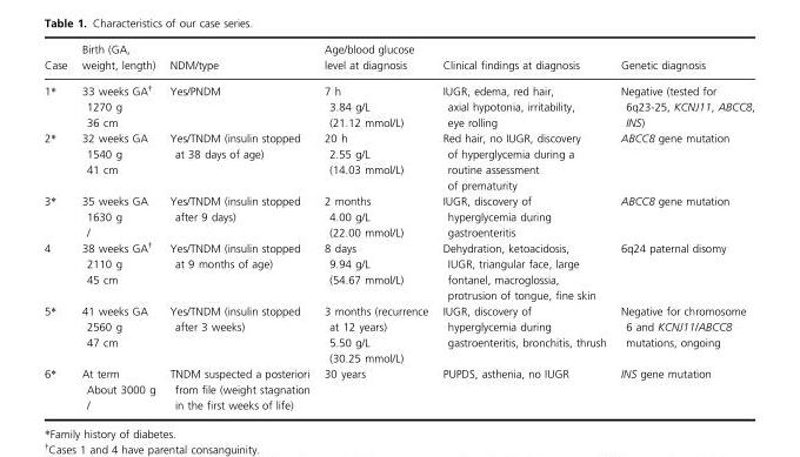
<table><thead><tr><td>Case</td><td>Birth (GA, weight, length)</td><td>NDM/type</td><td>Age/blood glucose level at diagnosis</td><td>Clinical findings at diagnosis</td><td>Genetic diagnosis</td></tr></thead><tbody><tr><td>1*</td><td>33 weeks GA† 1270 g 36 cm</td><td>Yes/PNDM</td><td>7 h 3.84 g/L (21.12 mmol/L)</td><td>IUGR, edema, red hair, axial hypotonia, irritability, eye rolling</td><td>Negative (tested for 6q23-25, KCNJ11, ABCC8, INS)</td></tr><tr><td>2*</td><td>32 weeks GA 1540 g 41 cm</td><td>Yes/TNDM (insulin stopped at 38 days of age)</td><td>20 h 2.55 g/L (14.03 mmol/L)</td><td>Red hair, no IUGR, discovery of hyperglycemia during a routine assessment of prematurity</td><td>ABCC8 gene mutation</td></tr><tr><td>3*</td><td>35 weeks GA 1630 g /</td><td>Yes/TNDM (insulin stopped after 9 days)</td><td>2 months 4.00 g/L (22.00 mmol/L)</td><td>IUGR, discovery of hyperglycemia during gastroenteritis</td><td>ABCC8 gene mutation</td></tr><tr><td>4</td><td>38 weeks GA† 2110 g 45 cm</td><td>Yes/TNDM (insulin stopped at 9 months of age)</td><td>8 days 9.94 g/L (54.67 mmol/L)</td><td>Dehydration, ketoacidosis, IUGR, triangular face, large fontanel, macroglossia, protrusion of tongue, fine skin</td><td>6q24 paternal disomy</td></tr><tr><td>5*</td><td>41 weeks GA 2560 g 47 cm</td><td>Yes/TNDM (insulin stopped after 3 weeks)</td><td>3 months (recurrence at 12 years) 5.50 g/L (30.25 mmol/L)</td><td>IUGR, discovery of hyperglycemia during gastroenteritis, bronchitis, thrush</td><td>Negative for chromosome 6 and KCNJ11/ABCC8 mutations, ongoing</td></tr><tr><td>6*</td><td>At term About 3000 g /</td><td>TNDM suspected a posteriori from file (weight stagnation in the first weeks of life)</td><td>30 years</td><td>PUPDS, asthenia, no IUGR</td><td>INS gene mutation</td></tr></tbody></table>